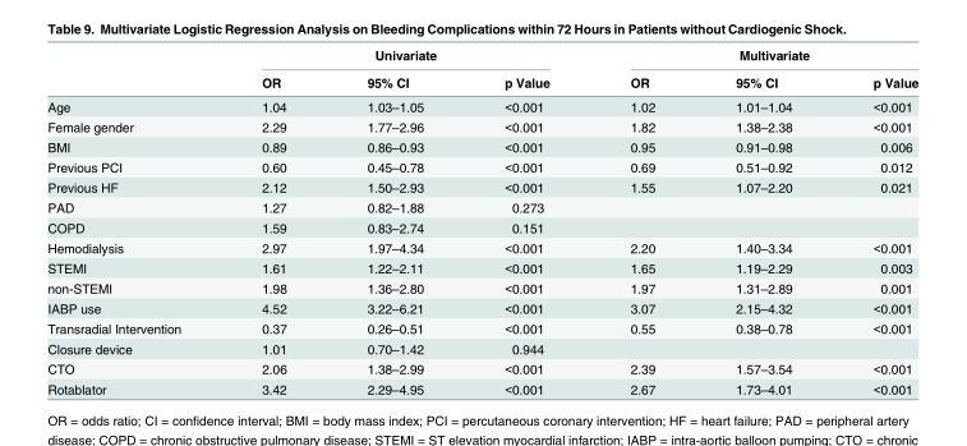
<table><thead><tr><td rowspan="2"></td><td colspan="3">Univariate</td><td colspan="3">Multivariate</td></tr><tr><td>OR</td><td>95% CI</td><td>p Value</td><td>OR</td><td>95% CI</td><td>p Value</td></tr></thead><tbody><tr><td>Age</td><td>1.04</td><td>1.03–1.05</td><td>&lt;0.001</td><td>1.02</td><td>1.01–1.04</td><td>&lt;0.001</td></tr><tr><td>Female gender</td><td>2.29</td><td>1.77–2.96</td><td>&lt;0.001</td><td>1.82</td><td>1.38–2.38</td><td>&lt;0.001</td></tr><tr><td>BMI</td><td>0.89</td><td>0.86–0.93</td><td>&lt;0.001</td><td>0.95</td><td>0.91–0.98</td><td>0.006</td></tr><tr><td>Previous PCI</td><td>0.60</td><td>0.45–0.78</td><td>&lt;0.001</td><td>0.69</td><td>0.51–0.92</td><td>0.012</td></tr><tr><td>Previous HF</td><td>2.12</td><td>1.50–2.93</td><td>&lt;0.001</td><td>1.55</td><td>1.07–2.20</td><td>0.021</td></tr><tr><td>PAD</td><td>1.27</td><td>0.82–1.88</td><td>0.273</td><td></td><td></td><td></td></tr><tr><td>COPD</td><td>1.59</td><td>0.83–2.74</td><td>0.151</td><td></td><td></td><td></td></tr><tr><td>Hemodialysis</td><td>2.97</td><td>1.97–4.34</td><td>&lt;0.001</td><td>2.20</td><td>1.40–3.34</td><td>&lt;0.001</td></tr><tr><td>STEMI</td><td>1.61</td><td>1.22–2.11</td><td>&lt;0.001</td><td>1.65</td><td>1.19–2.29</td><td>0.003</td></tr><tr><td>non-STEMI</td><td>1.98</td><td>1.36–2.80</td><td>&lt;0.001</td><td>1.97</td><td>1.31–2.89</td><td>0.001</td></tr><tr><td>IABP use</td><td>4.52</td><td>3.22–6.21</td><td>&lt;0.001</td><td>3.07</td><td>2.15–4.32</td><td>&lt;0.001</td></tr><tr><td>Transradial Intervention</td><td>0.37</td><td>0.26–0.51</td><td>&lt;0.001</td><td>0.55</td><td>0.38–0.78</td><td>&lt;0.001</td></tr><tr><td>Closure device</td><td>1.01</td><td>0.70–1.42</td><td>0.944</td><td></td><td></td><td></td></tr><tr><td>CTO</td><td>2.06</td><td>1.38–2.99</td><td>&lt;0.001</td><td>2.39</td><td>1.57–3.54</td><td>&lt;0.001</td></tr><tr><td>Rotablator</td><td>3.42</td><td>2.29–4.95</td><td>&lt;0.001</td><td>2.67</td><td>1.73–4.01</td><td>&lt;0.001</td></tr></tbody></table>